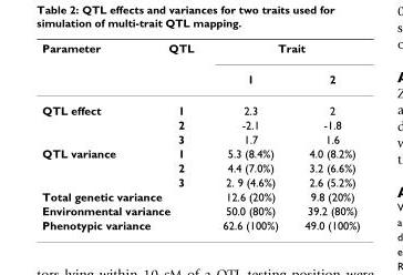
<table><thead><tr><td rowspan="2">Parameter</td><td rowspan="2">QTL</td><td colspan="2">Trait</td></tr><tr><td>1</td><td>2</td></tr></thead><tbody><tr><td rowspan="3">QTL effect</td><td>1</td><td>2.3</td><td>2</td></tr><tr><td>2</td><td>-2.1</td><td>-1.8</td></tr><tr><td>3</td><td>1.7</td><td>1.6</td></tr><tr><td rowspan="3">QTL variance</td><td>1</td><td>5.3 (8.4%)</td><td>4.0 (8.2%)</td></tr><tr><td>2</td><td>4.4 (7.0%)</td><td>3.2 (6.6%)</td></tr><tr><td>3</td><td>2. 9 (4.6%)</td><td>2.6 (5.2%)</td></tr><tr><td colspan="2">Total genetic variance</td><td>12.6 (20%)</td><td>9.8 (20%)</td></tr><tr><td colspan="2">Environmental variance</td><td>50.0 (80%)</td><td>39.2 (80%)</td></tr><tr><td colspan="2">Phenotypic variance</td><td>62.6 (100%)</td><td>49.0 (100%)</td></tr></tbody></table>